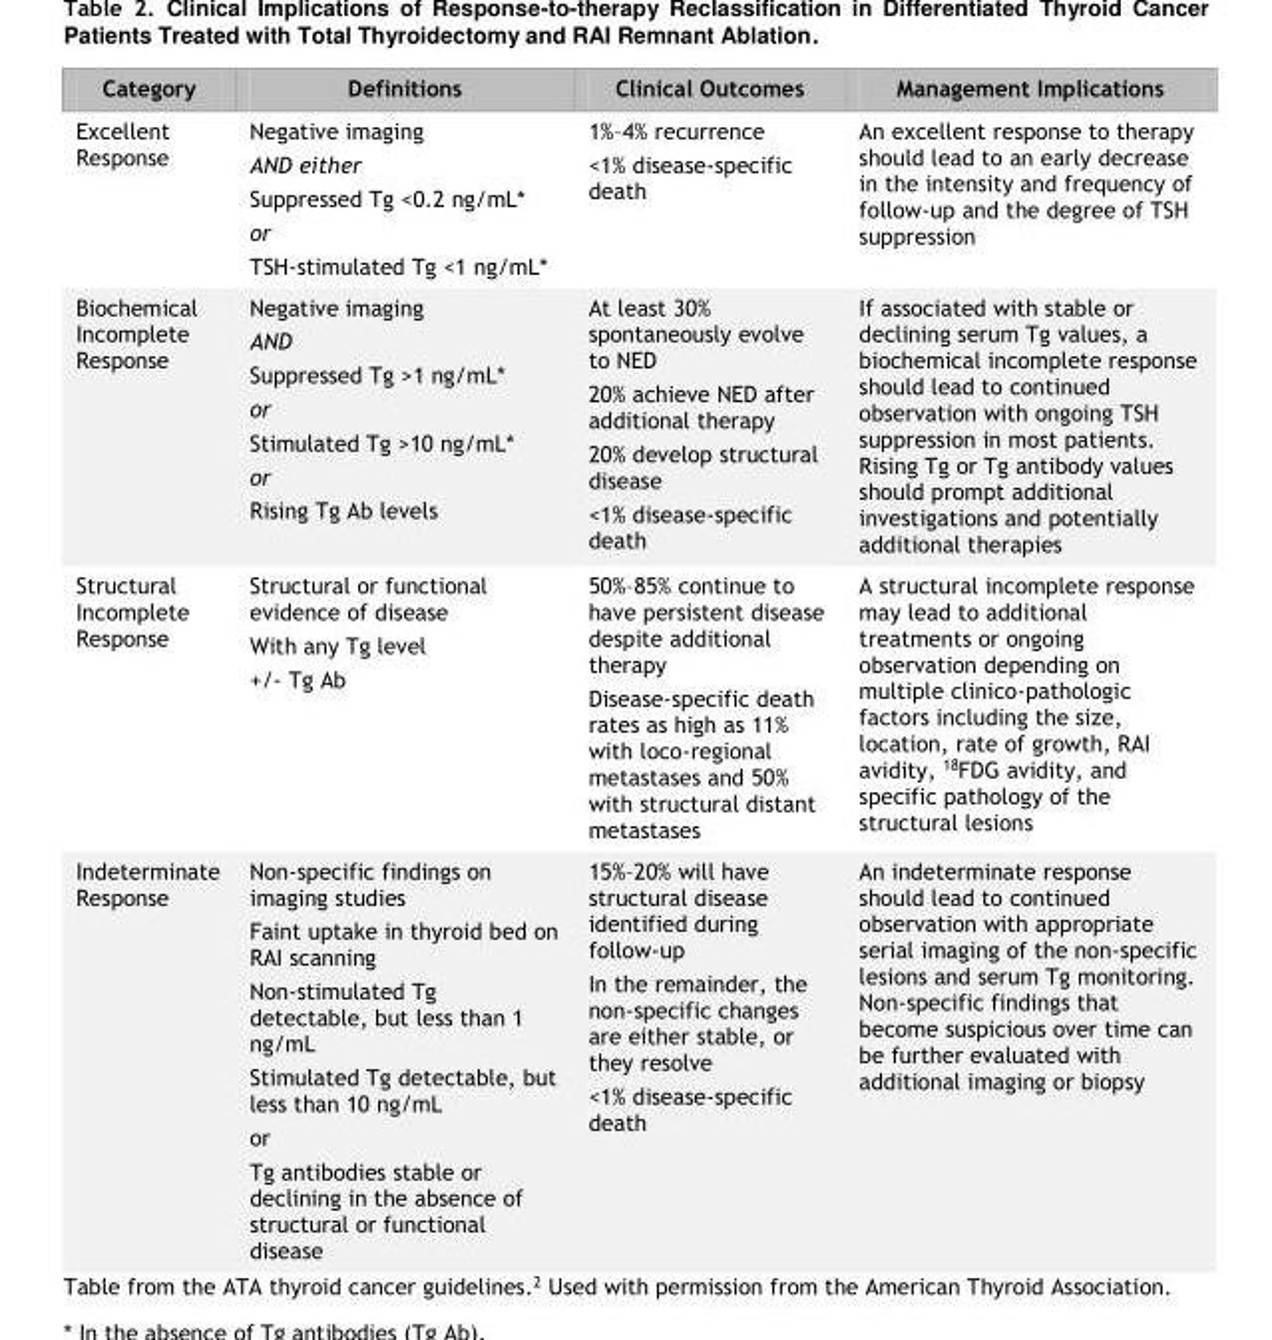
<table><thead><tr><td>Category</td><td>Definitions</td><td>Clinical Outcomes</td><td>Management Implications</td></tr></thead><tbody><tr><td>Excellent Response</td><td>Negative imaging AND either Suppressed Tg &lt;0.2 ng/mL* or TSH-stimulated Tg &lt;1 ng/mL*</td><td>1%–4% recurrence &lt;1% disease-specific death</td><td>An excellent response to therapy should lead to an early decrease in the intensity and frequency of follow-up and the degree of TSH suppression</td></tr><tr><td>Biochemical Incomplete Response</td><td>Negative imaging AND Suppressed Tg &gt;1 ng/mL* or Stimulated Tg &gt;10 ng/mL* or Rising Tg Ab levels</td><td>At least 30% spontaneously evolve to NED 20% achieve NED after additional therapy 20% develop structural disease &lt;1% disease-specific death</td><td>If associated with stable or declining serum Tg values, a biochemical incomplete response should lead to continued observation with ongoing TSH suppression in most patients. Rising Tg or Tg antibody values should prompt additional investigations and potentially additional therapies</td></tr><tr><td>Structural Incomplete Response</td><td>Structural or functional evidence of disease With any Tg level +/- Tg Ab</td><td>50%–85% continue to have persistent disease despite additional therapy Disease-specific death rates as high as 11% with loco-regional metastases and 50% with structural distant metastases</td><td>A structural incomplete response may lead to additional treatments or ongoing observation depending on multiple clinico-pathologic factors including the size, location, rate of growth, RAI avidity, <sup>18</sup>FDG avidity, and specific pathology of the structural lesions</td></tr><tr><td>Indeterminate Response</td><td>Non-specific findings on imaging studies Faint uptake in thyroid bed on RAI scanning Non-stimulated Tg detectable, but less than 1 ng/mL Stimulated Tg detectable, but less than 10 ng/mL or Tg antibodies stable or declining in the absence of structural or functional disease</td><td>15%–20% will have structural disease identified during follow-up In the remainder, the non-specific changes are either stable, or they resolve &lt;1% disease-specific death</td><td>An indeterminate response should lead to continued observation with appropriate serial imaging of the non-specific lesions and serum Tg monitoring. Non-specific findings that become suspicious over time can be further evaluated with additional imaging or biopsy</td></tr></tbody></table>